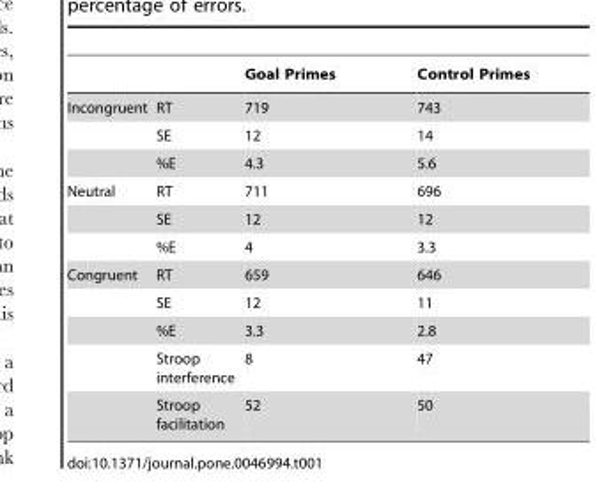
<table><thead><tr><td></td><td></td><td>Goal Primes</td><td>Control Primes</td></tr></thead><tbody><tr><td rowspan="3">Incongruent</td><td>RT</td><td>719</td><td>743</td></tr><tr><td>SE</td><td>12</td><td>14</td></tr><tr><td>%E</td><td>4.3</td><td>5.6</td></tr><tr><td rowspan="3">Neutral</td><td>RT</td><td>711</td><td>696</td></tr><tr><td>SE</td><td>12</td><td>12</td></tr><tr><td>%E</td><td>4</td><td>3.3</td></tr><tr><td rowspan="5">Congruent</td><td>RT</td><td>659</td><td>646</td></tr><tr><td>SE</td><td>12</td><td>11</td></tr><tr><td>%E</td><td>3.3</td><td>2.8</td></tr><tr><td>Stroop interference</td><td>8</td><td>47</td></tr><tr><td>Stroop facilitation</td><td>52</td><td>50</td></tr></tbody></table>